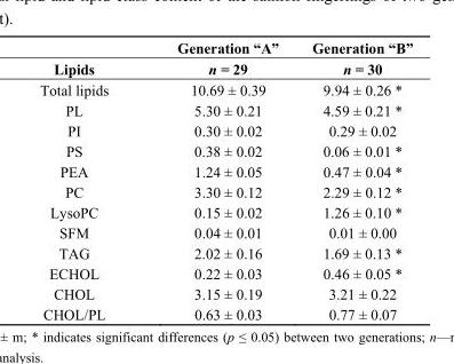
<table><thead><tr><td rowspan="2">Lipids</td><td rowspan="2">Generation “А” n = 29</td><td rowspan="2">Generation “B” n = 30</td></tr><tr></tr></thead><tbody><tr><td>Total lipids</td><td>10.69 ± 0.39</td><td>9.94 ± 0.26 *</td></tr><tr><td>PL</td><td>5.30 ± 0.21</td><td>4.59 ± 0.21 *</td></tr><tr><td>PI</td><td>0.30 ± 0.02</td><td>0.29 ± 0.02</td></tr><tr><td>PS</td><td>0.38 ± 0.02</td><td>0.06 ± 0.01 *</td></tr><tr><td>PEA</td><td>1.24 ± 0.05</td><td>0.47 ± 0.04 *</td></tr><tr><td>PC</td><td>3.30 ± 0.12</td><td>2.29 ± 0.12 *</td></tr><tr><td>LysoPC</td><td>0.15 ± 0.02</td><td>1.26 ± 0.10 *</td></tr><tr><td>SFM</td><td>0.04 ± 0.01</td><td>0.01 ± 0.00</td></tr><tr><td>TAG</td><td>2.02 ± 0.16</td><td>1.69 ± 0.13 *</td></tr><tr><td>ECHOL</td><td>0.22 ± 0.03</td><td>0.46 ± 0.05 *</td></tr><tr><td>CHOL</td><td>3.15 ± 0.19</td><td>3.21 ± 0.22</td></tr><tr><td>CHOL/PL</td><td>0.63 ± 0.03</td><td>0.77 ± 0.07</td></tr></tbody></table>